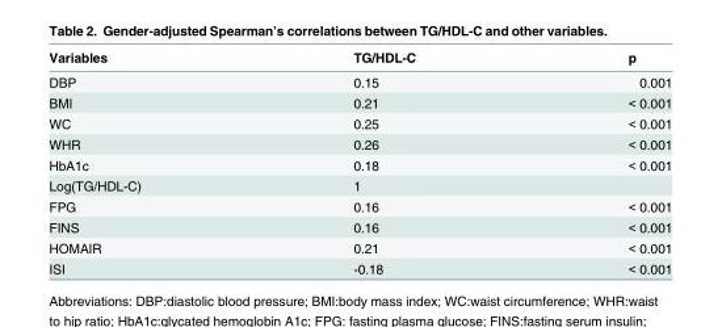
<table><thead><tr><td>Variables</td><td>TG/HDL-C</td><td>p</td></tr></thead><tbody><tr><td>DBP</td><td>0.15</td><td>0.001</td></tr><tr><td>BMI</td><td>0.21</td><td>&lt; 0.001</td></tr><tr><td>WC</td><td>0.25</td><td>&lt; 0.001</td></tr><tr><td>WHR</td><td>0.26</td><td>&lt; 0.001</td></tr><tr><td>HbA1c</td><td>0.18</td><td>&lt; 0.001</td></tr><tr><td>Log(TG/HDL-C)</td><td>1</td><td></td></tr><tr><td>FPG</td><td>0.16</td><td>&lt; 0.001</td></tr><tr><td>FINS</td><td>0.16</td><td>&lt; 0.001</td></tr><tr><td>HOMAIR</td><td>0.21</td><td>&lt; 0.001</td></tr><tr><td>ISI</td><td>-0.18</td><td>&lt; 0.001</td></tr></tbody></table>